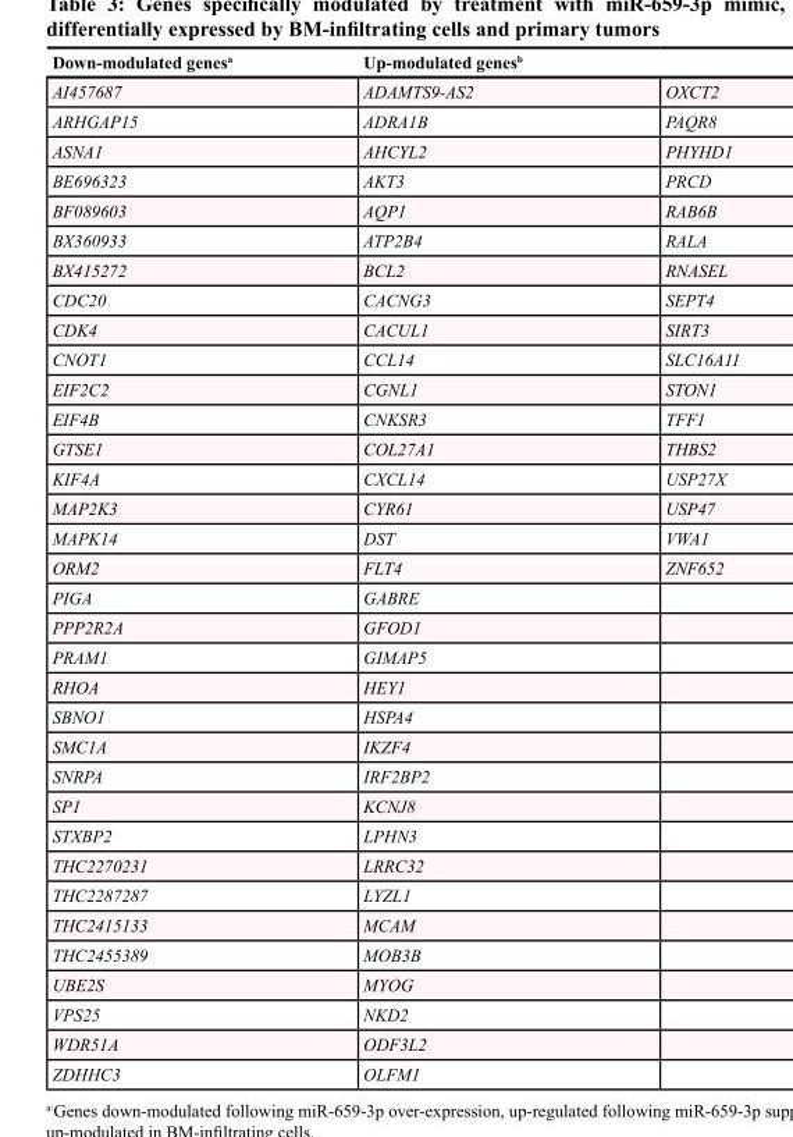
<table><thead><tr><td>Down-modulated genes<sup>a</sup></td><td>Up-modulated genes<sup>b</sup></td><td></td></tr></thead><tbody><tr><td>AI457687</td><td>ADAMTS9-AS2</td><td>OXCT2</td></tr><tr><td>ARHGAP15</td><td>ADRA1B</td><td>PAQR8</td></tr><tr><td>ASNA1</td><td>AHCYL2</td><td>PHYHD1</td></tr><tr><td>BE696323</td><td>AKT3</td><td>PRCD</td></tr><tr><td>BF089603</td><td>AQP1</td><td>RAB6B</td></tr><tr><td>BX360933</td><td>ATP2B4</td><td>RALA</td></tr><tr><td>BX415272</td><td>BCL2</td><td>RNASEL</td></tr><tr><td>CDC20</td><td>CACNG3</td><td>SEPT4</td></tr><tr><td>CDK4</td><td>CACUL1</td><td>SIRT3</td></tr><tr><td>CNOT1</td><td>CCL14</td><td>SLC16A11</td></tr><tr><td>EIF2C2</td><td>CGNL1</td><td>STON1</td></tr><tr><td>EIF4B</td><td>CNKSR3</td><td>TFF1</td></tr><tr><td>GTSE1</td><td>COL27A1</td><td>THBS2</td></tr><tr><td>KIF4A</td><td>CXCL14</td><td>USP27X</td></tr><tr><td>MAP2K3</td><td>CYR61</td><td>USP47</td></tr><tr><td>MAPK14</td><td>DST</td><td>VWA1</td></tr><tr><td>ORM2</td><td>FLT4</td><td>ZNF652</td></tr><tr><td>PIGA</td><td>GABRE</td><td></td></tr><tr><td>PPP2R2A</td><td>GFOD1</td><td></td></tr><tr><td>PRAM1</td><td>GIMAP5</td><td></td></tr><tr><td>RHOA</td><td>HEY1</td><td></td></tr><tr><td>SBNO1</td><td>HSPA4</td><td></td></tr><tr><td>SMC1A</td><td>IKZF4</td><td></td></tr><tr><td>SNRPA</td><td>IRF2BP2</td><td></td></tr><tr><td>SP1</td><td>KCNJ8</td><td></td></tr><tr><td>STXBP2</td><td>LPHN3</td><td></td></tr><tr><td>THC2270231</td><td>LRRC32</td><td></td></tr><tr><td>THC2287287</td><td>LYZL1</td><td></td></tr><tr><td>THC2415133</td><td>MCAM</td><td></td></tr><tr><td>THC2455389</td><td>MOB3B</td><td></td></tr><tr><td>UBE2S</td><td>MYOG</td><td></td></tr><tr><td>VPS25</td><td>NKD2</td><td></td></tr><tr><td>WDR51A</td><td>ODF3L2</td><td></td></tr><tr><td>ZDHHC3</td><td>OLFM1</td><td></td></tr></tbody></table>